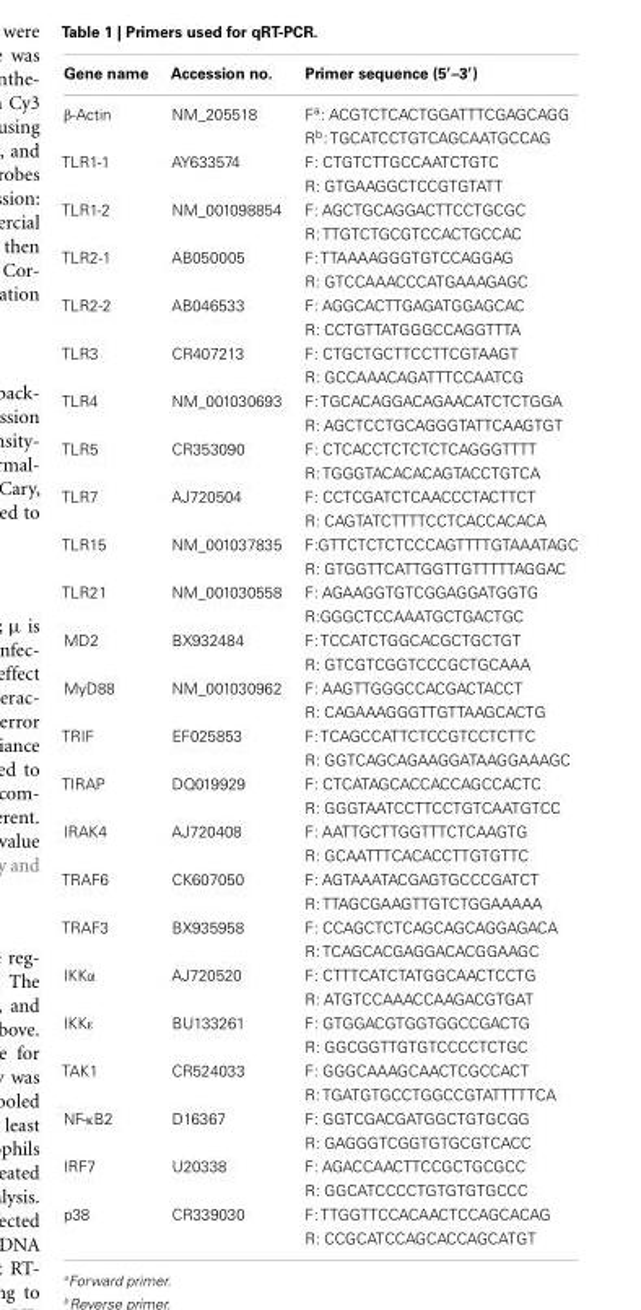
<table><thead><tr><td>Gene name</td><td>Accession no.</td><td>Primer sequence (5′–3′)</td></tr></thead><tbody><tr><td rowspan="2">β-Actin</td><td>NM_205518</td><td>F<sup>a</sup>: ACGTCTCACTGGATTTCGAGCAGG</td></tr><tr><td></td><td>R<sup>b</sup>: TGCATCCTGTCAGCAATGCCAG</td></tr><tr><td rowspan="2">TLR1-1</td><td>AY633574</td><td>F: CTGTCTTGCCAATCTGTC</td></tr><tr><td></td><td>R: GTGAAGGCTCCGTGTATT</td></tr><tr><td rowspan="2">TLR1-2</td><td>NM_001098854</td><td>F: AGCTGCAGGACTTCCTGCGC</td></tr><tr><td></td><td>R: TTGTCTGCGTCCACTGCCAC</td></tr><tr><td rowspan="2">TLR2-1</td><td>AB050005</td><td>F: TTAAAAGGGTGTCCAGGAG</td></tr><tr><td></td><td>R: GTCCAAACCCATGAAAGAGC</td></tr><tr><td rowspan="2">TLR2-2</td><td>AB046533</td><td>F: AGGCACTTGAGATGGAGCAC</td></tr><tr><td></td><td>R: CCTGTTATGGGCCAGGTTTA</td></tr><tr><td rowspan="2">TLR3</td><td>CR407213</td><td>F: CTGCTGCTTCCTTCGTAAGT</td></tr><tr><td></td><td>R: GCCAAACAGATTTCCAATCG</td></tr><tr><td rowspan="2">TLR4</td><td>NM_001030693</td><td>F: TGCACAGGACAGAACATCTCTGGA</td></tr><tr><td></td><td>R: AGCTCCTGCAGGGTATTCAAGTGT</td></tr><tr><td rowspan="2">TLR5</td><td>CR353090</td><td>F: CTCACCTCTCTCTCAGGGTTTT</td></tr><tr><td></td><td>R: TGGGTACACACAGTACCTGTCA</td></tr><tr><td rowspan="2">TLR7</td><td>AJ720504</td><td>F: CCTCGATCTCAACCCTACTTCT</td></tr><tr><td></td><td>R: CAGTATCTTTTCCTCACCACACA</td></tr><tr><td rowspan="2">TLR15</td><td>NM_001037835</td><td>F:GTTCTCTCTCCCAGTTTTGTAAATAGC</td></tr><tr><td></td><td>R: GTGGTTCATTGGTTGTTTTTAGGAC</td></tr><tr><td rowspan="2">TLR21</td><td>NM_001030558</td><td>F: AGAAGGTGTCGGAGGATGGTG</td></tr><tr><td></td><td>R:GGGCTCCAAATGCTGACTGC</td></tr><tr><td rowspan="2">MD2</td><td>BX932484</td><td>F: TCCATCTGGCACGCTGCTGT</td></tr><tr><td></td><td>R: GTCGTCGGTCCCGCTGCAAA</td></tr><tr><td rowspan="2">MyD88</td><td>NM_001030962</td><td>F: AAGTTGGGCCACGACTACCT</td></tr><tr><td></td><td>R: CAGAAAGGGTTGTTAAGCACTG</td></tr><tr><td rowspan="2">TRIF</td><td>EF025853</td><td>F: TCAGCCATTCTCCGTCCTCTTC</td></tr><tr><td></td><td>R: GGTCAGCAGAAGGATAAGGAAAGC</td></tr><tr><td rowspan="2">TIRAP</td><td>DQ019929</td><td>F: CTCATAGCACCACCAGCCACTC</td></tr><tr><td></td><td>R: GGGTAATCCTTCCTGTCAATGTCC</td></tr><tr><td rowspan="2">IRAK4</td><td>AJ720408</td><td>F: AATTGCTTGGTTTCTCAAGTG</td></tr><tr><td></td><td>R: GCAATTTCACACCTTGTGTTC</td></tr><tr><td rowspan="2">TRAF6</td><td>CK607050</td><td>F: AGTAAATACGAGTGCCCGATCT</td></tr><tr><td></td><td>R: TTAGCGAAGTTGTCTGGAAAAA</td></tr><tr><td rowspan="2">TRAF3</td><td>BX935958</td><td>F: CCAGCTCTCAGCAGCAGGAGACA</td></tr><tr><td></td><td>R: TCAGCACGAGGACACGGAAGC</td></tr><tr><td rowspan="2">IKKα</td><td>AJ720520</td><td>F: CTTTCATCTATGGCAACTCCTG</td></tr><tr><td></td><td>R: ATGTCCAAACCAAGACGTGAT</td></tr><tr><td rowspan="2">IKKε</td><td>BU133261</td><td>F: GTGGACGTGGTGGCCGACTG</td></tr><tr><td></td><td>R: GGCGGTTGTGTCCCCTCTGC</td></tr><tr><td rowspan="2">TAK1</td><td>CR524033</td><td>F: GGGCAAAGCAACTCGCCACT</td></tr><tr><td></td><td>R: TGATGTGCCTGGCCGTATTTTTCA</td></tr><tr><td rowspan="2">NF-κB2</td><td>D16367</td><td>F: GGTCGACGATGGCTGTGCGG</td></tr><tr><td></td><td>R: GAGGGTCGGTGTGCGTCACC</td></tr><tr><td rowspan="2">IRF7</td><td>U20338</td><td>F: AGACCAACTTCCGCTGCGCC</td></tr><tr><td></td><td>R: GGCATCCCCTGTGTGTGCCC</td></tr><tr><td rowspan="2">p38</td><td>CR339030</td><td>F: TTGGTTCCACAACTCCAGCACAG</td></tr><tr><td></td><td>R: CCGCATCCAGCACCAGCATGT</td></tr></tbody></table>